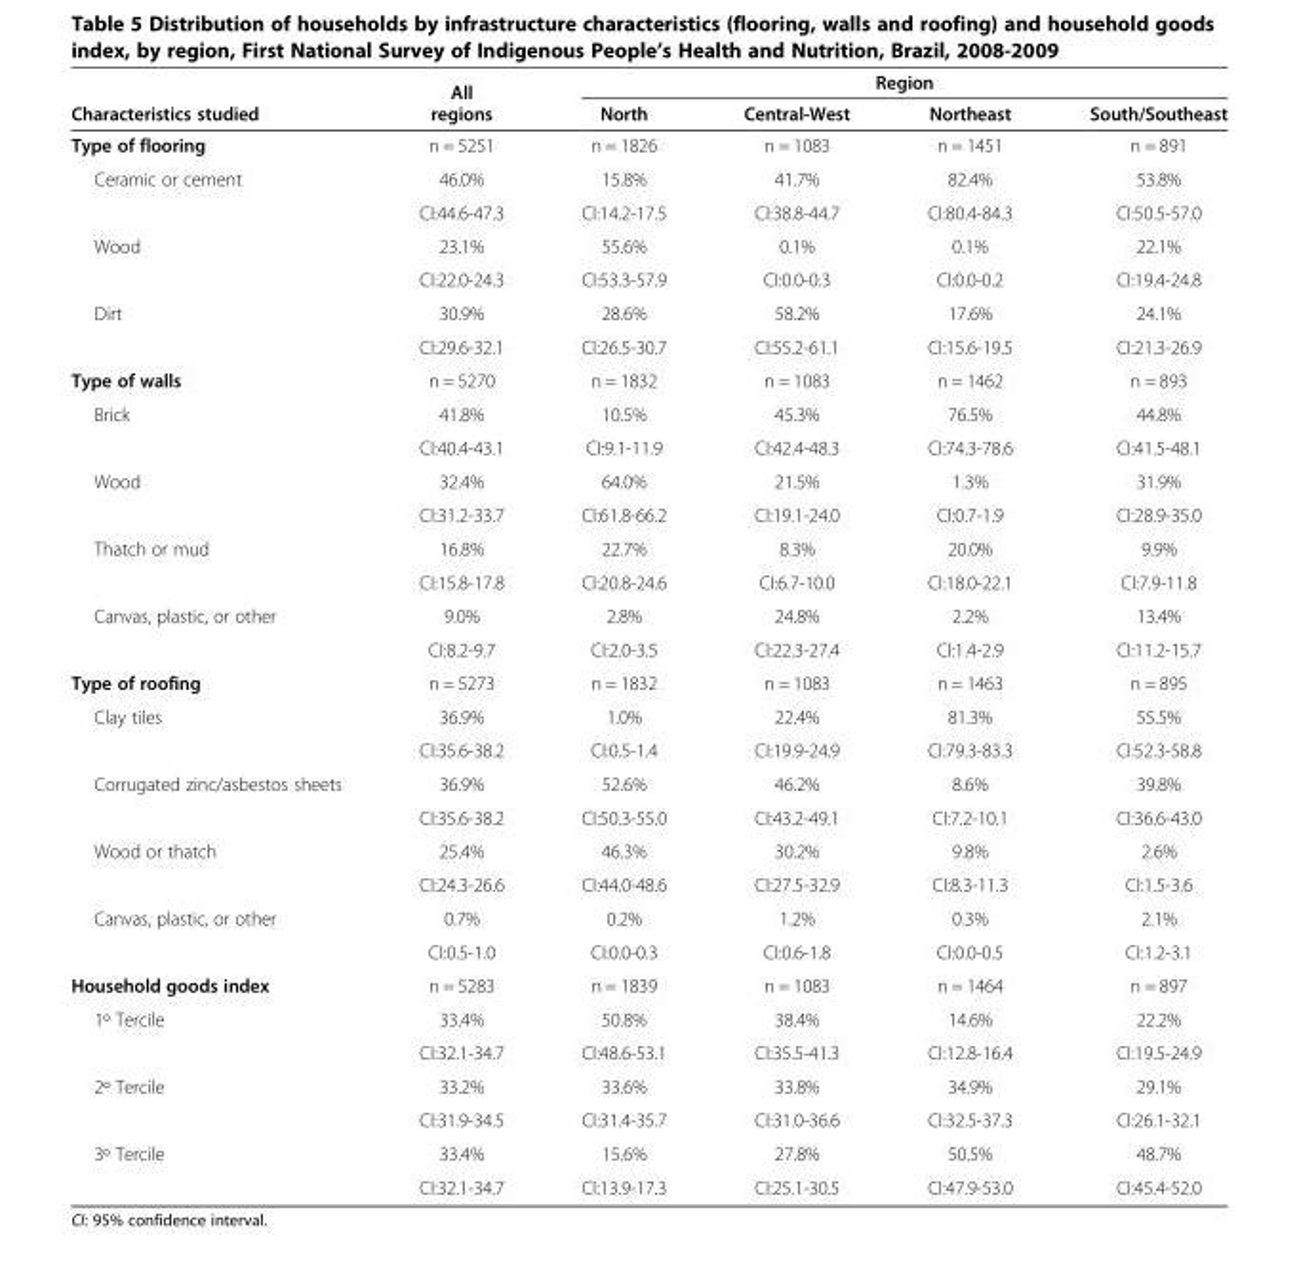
<table><thead><tr><td rowspan="2">Characteristics studied</td><td rowspan="2">All regions</td><td colspan="4">Region</td></tr><tr><td>North</td><td>Central-West</td><td>Northeast</td><td>South/Southeast</td></tr></thead><tbody><tr><td>Type of flooring</td><td>n = 5251</td><td>n = 1826</td><td>n = 1083</td><td>n = 1451</td><td>n = 891</td></tr><tr><td rowspan="2">Ceramic or cement</td><td>46.0%</td><td>15.8%</td><td>41.7%</td><td>82.4%</td><td>53.8%</td></tr><tr><td>CI:44.6-47.3</td><td>CI:14.2-17.5</td><td>CI:38.8-44.7</td><td>CI:80.4-84.3</td><td>CI:50.5-57.0</td></tr><tr><td rowspan="2">Wood</td><td>23.1%</td><td>55.6%</td><td>0.1%</td><td>0.1%</td><td>22.1%</td></tr><tr><td>CI:22.0-24.3</td><td>CI:53.3-57.9</td><td>CI:0.0-0.3</td><td>CI:0.0-0.2</td><td>CI:19.4-24.8</td></tr><tr><td rowspan="2">Dirt</td><td>30.9%</td><td>28.6%</td><td>58.2%</td><td>17.6%</td><td>24.1%</td></tr><tr><td>CI:29.6-32.1</td><td>CI:26.5-30.7</td><td>CI:55.2-61.1</td><td>CI:15.6-19.5</td><td>CI:21.3-26.9</td></tr><tr><td>Type of walls</td><td>n = 5270</td><td>n = 1832</td><td>n = 1083</td><td>n = 1462</td><td>n = 893</td></tr><tr><td rowspan="2">Brick</td><td>41.8%</td><td>10.5%</td><td>45.3%</td><td>76.5%</td><td>44.8%</td></tr><tr><td>CI:40.4-43.1</td><td>CI:9.1-11.9</td><td>CI:42.4-48.3</td><td>CI:74.3-78.6</td><td>CI:41.5-48.1</td></tr><tr><td rowspan="2">Wood</td><td>32.4%</td><td>64.0%</td><td>21.5%</td><td>1.3%</td><td>31.9%</td></tr><tr><td>CI:31.2-33.7</td><td>CI:61.8-66.2</td><td>CI:19.1-24.0</td><td>CI:0.7-1.9</td><td>CI:28.9-35.0</td></tr><tr><td rowspan="2">Thatch or mud</td><td>16.8%</td><td>22.7%</td><td>8.3%</td><td>20.0%</td><td>9.9%</td></tr><tr><td>CI:15.8-17.8</td><td>CI:20.8-24.6</td><td>CI:6.7-10.0</td><td>CI:18.0-22.1</td><td>CI:7.9-11.8</td></tr><tr><td rowspan="2">Canvas, plastic, or other</td><td>9.0%</td><td>2.8%</td><td>24.8%</td><td>2.2%</td><td>13.4%</td></tr><tr><td>CI:8.2-9.7</td><td>CI:2.0-3.5</td><td>CI:22.3-27.4</td><td>CI:1.4-2.9</td><td>CI:11.2-15.7</td></tr><tr><td>Type of roofing</td><td>n = 5273</td><td>n = 1832</td><td>n = 1083</td><td>n = 1463</td><td>n = 895</td></tr><tr><td rowspan="2">Clay tiles</td><td>36.9%</td><td>1.0%</td><td>22.4%</td><td>81.3%</td><td>55.5%</td></tr><tr><td>CI:35.6-38.2</td><td>CI:0.5-1.4</td><td>CI:19.9-24.9</td><td>CI:79.3-83.3</td><td>CI:52.3-58.8</td></tr><tr><td rowspan="2">Corrugated zinc/asbestos sheets</td><td>36.9%</td><td>52.6%</td><td>46.2%</td><td>8.6%</td><td>39.8%</td></tr><tr><td>CI:35.6-38.2</td><td>CI:50.3-55.0</td><td>CI:43.2-49.1</td><td>CI:7.2-10.1</td><td>CI:36.6-43.0</td></tr><tr><td rowspan="2">Wood or thatch</td><td>25.4%</td><td>46.3%</td><td>30.2%</td><td>9.8%</td><td>2.6%</td></tr><tr><td>CI:24.3-26.6</td><td>CI:44.0-48.6</td><td>CI:27.5-32.9</td><td>CI:8.3-11.3</td><td>CI:1.5-3.6</td></tr><tr><td rowspan="2">Canvas, plastic, or other</td><td>0.7%</td><td>0.2%</td><td>1.2%</td><td>0.3%</td><td>2.1%</td></tr><tr><td>CI:0.5-1.0</td><td>CI:0.0-0.3</td><td>CI:0.6-1.8</td><td>CI:0.0-0.5</td><td>CI:1.2-3.1</td></tr><tr><td>Household goods index</td><td>n = 5283</td><td>n = 1839</td><td>n = 1083</td><td>n = 1464</td><td>n = 897</td></tr><tr><td rowspan="2">1º Tercile</td><td>33.4%</td><td>50.8%</td><td>38.4%</td><td>14.6%</td><td>22.2%</td></tr><tr><td>CI:32.1-34.7</td><td>CI:48.6-53.1</td><td>CI:35.5-41.3</td><td>CI:12.8-16.4</td><td>CI:19.5-24.9</td></tr><tr><td rowspan="2">2º Tercile</td><td>33.2%</td><td>33.6%</td><td>33.8%</td><td>34.9%</td><td>29.1%</td></tr><tr><td>CI:31.9-34.5</td><td>CI:31.4-35.7</td><td>CI:31.0-36.6</td><td>CI:32.5-37.3</td><td>CI:26.1-32.1</td></tr><tr><td rowspan="2">3º Tercile</td><td>33.4%</td><td>15.6%</td><td>27.8%</td><td>50.5%</td><td>48.7%</td></tr><tr><td>CI:32.1-34.7</td><td>CI:13.9-17.3</td><td>CI:25.1-30.5</td><td>CI:47.9-53.0</td><td>CI:45.4-52.0</td></tr></tbody></table>